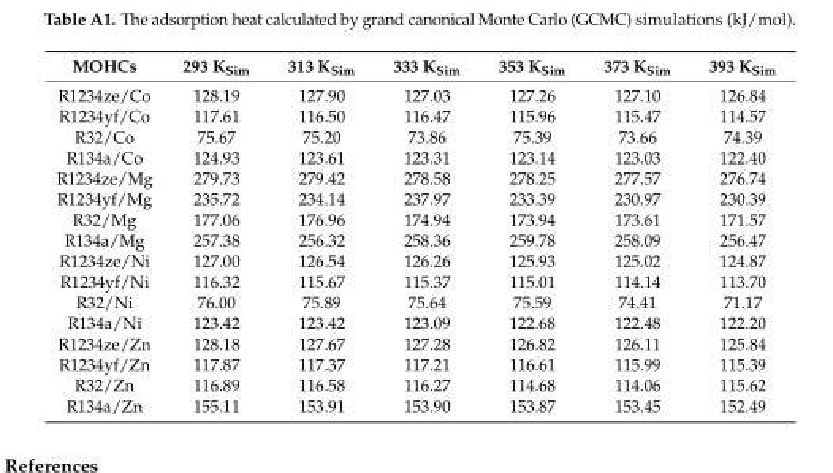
<table><thead><tr><td>MOHCs</td><td>293 K<sub>Sim</sub></td><td>313 K<sub>Sim</sub></td><td>333 K<sub>Sim</sub></td><td>353 K<sub>Sim</sub></td><td>373 K<sub>Sim</sub></td><td>393 K<sub>Sim</sub></td></tr></thead><tbody><tr><td>R1234ze/Co</td><td>128.19</td><td>127.90</td><td>127.03</td><td>127.26</td><td>127.10</td><td>126.84</td></tr><tr><td>R1234yf/Co</td><td>117.61</td><td>116.50</td><td>116.47</td><td>115.96</td><td>115.47</td><td>114.57</td></tr><tr><td>R32/Co</td><td>75.67</td><td>75.20</td><td>73.86</td><td>75.39</td><td>73.66</td><td>74.39</td></tr><tr><td>R134a/Co</td><td>124.93</td><td>123.61</td><td>123.31</td><td>123.14</td><td>123.03</td><td>122.40</td></tr><tr><td>R1234ze/Mg</td><td>279.73</td><td>279.42</td><td>278.58</td><td>278.25</td><td>277.57</td><td>276.74</td></tr><tr><td>R1234yf/Mg</td><td>235.72</td><td>234.14</td><td>237.97</td><td>233.39</td><td>230.97</td><td>230.39</td></tr><tr><td>R32/Mg</td><td>177.06</td><td>176.96</td><td>174.94</td><td>173.94</td><td>173.61</td><td>171.57</td></tr><tr><td>R134a/Mg</td><td>257.38</td><td>256.32</td><td>258.36</td><td>259.78</td><td>258.09</td><td>256.47</td></tr><tr><td>R1234ze/Ni</td><td>127.00</td><td>126.54</td><td>126.26</td><td>125.93</td><td>125.02</td><td>124.87</td></tr><tr><td>R1234yf/Ni</td><td>116.32</td><td>115.67</td><td>115.37</td><td>115.01</td><td>114.14</td><td>113.70</td></tr><tr><td>R32/Ni</td><td>76.00</td><td>75.89</td><td>75.64</td><td>75.59</td><td>74.41</td><td>71.17</td></tr><tr><td>R134a/Ni</td><td>123.42</td><td>123.42</td><td>123.09</td><td>122.68</td><td>122.48</td><td>122.20</td></tr><tr><td>R1234ze/Zn</td><td>128.18</td><td>127.67</td><td>127.28</td><td>126.82</td><td>126.11</td><td>125.84</td></tr><tr><td>R1234yf/Zn</td><td>117.87</td><td>117.37</td><td>117.21</td><td>116.61</td><td>115.99</td><td>115.39</td></tr><tr><td>R32/Zn</td><td>116.89</td><td>116.58</td><td>116.27</td><td>114.68</td><td>114.06</td><td>115.62</td></tr><tr><td>R134a/Zn</td><td>155.11</td><td>153.91</td><td>153.90</td><td>153.87</td><td>153.45</td><td>152.49</td></tr></tbody></table>